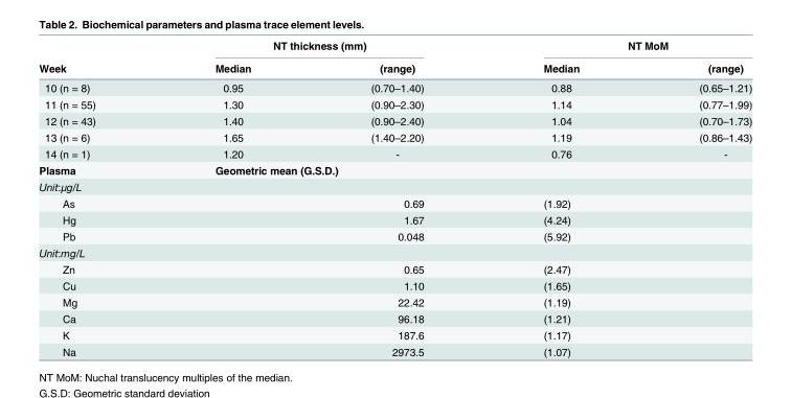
<table><thead><tr><td rowspan="2">Week</td><td colspan="2">NT thickness (mm)</td><td colspan="2">NT MoM</td></tr><tr><td>Median</td><td>(range)</td><td>Median</td><td>(range)</td></tr></thead><tbody><tr><td>10 (n = 8)</td><td>0.95</td><td>(0.70–1.40)</td><td>0.88</td><td>(0.65–1.21)</td></tr><tr><td>11 (n = 55)</td><td>1.30</td><td>(0.90–2.30)</td><td>1.14</td><td>(0.77–1.99)</td></tr><tr><td>12 (n = 43)</td><td>1.40</td><td>(0.90–2.40)</td><td>1.04</td><td>(0.70–1.73)</td></tr><tr><td>13 (n = 6)</td><td>1.65</td><td>(1.40–2.20)</td><td>1.19</td><td>(0.86–1.43)</td></tr><tr><td>14 (n = 1)</td><td>1.20</td><td>-</td><td>0.76</td><td>-</td></tr><tr><td>Plasma</td><td colspan="4">Geometric mean (G.S.D.)</td></tr><tr><td colspan="5">Unit:μg/L</td></tr><tr><td>As</td><td colspan="2">0.69</td><td colspan="2">(1.92)</td></tr><tr><td>Hg</td><td colspan="2">1.67</td><td colspan="2">(4.24)</td></tr><tr><td>Pb</td><td colspan="2">0.048</td><td colspan="2">(5.92)</td></tr><tr><td colspan="5">Unit:mg/L</td></tr><tr><td>Zn</td><td colspan="2">0.65</td><td colspan="2">(2.47)</td></tr><tr><td>Cu</td><td colspan="2">1.10</td><td colspan="2">(1.65)</td></tr><tr><td>Mg</td><td colspan="2">22.42</td><td colspan="2">(1.19)</td></tr><tr><td>Ca</td><td colspan="2">96.18</td><td colspan="2">(1.21)</td></tr><tr><td>K</td><td colspan="2">187.6</td><td colspan="2">(1.17)</td></tr><tr><td>Na</td><td colspan="2">2973.5</td><td colspan="2">(1.07)</td></tr></tbody></table>